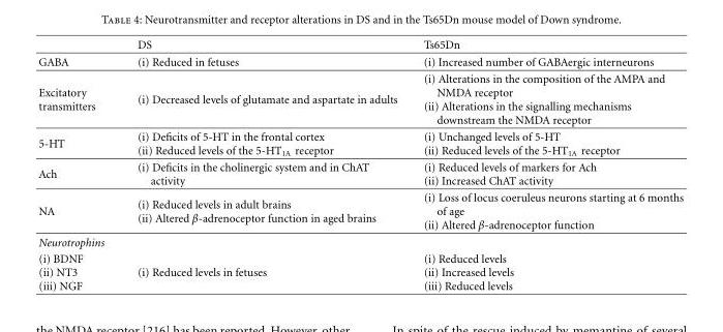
<table><thead><tr><td></td><td>DS</td><td>Ts65Dn</td></tr></thead><tbody><tr><td>GABA</td><td>(i) Reduced in fetuses</td><td>(i) Increased number of GABAergic interneurons</td></tr><tr><td>Excitatory transmitters</td><td>(i) Decreased levels of glutamate and aspartate in adults</td><td>(i) Alterations in the composition of the AMPA and NMDA receptor (ii) Alterations in the signalling mechanisms downstream the NMDA receptor</td></tr><tr><td>5-HT</td><td>(i) Deficits of 5-HT in the frontal cortex (ii) Reduced levels of the 5-HT<sub>1A</sub> receptor</td><td>(i) Unchanged levels of 5-HT (ii) Reduced levels of the 5-HT<sub>1A</sub> receptor</td></tr><tr><td>Ach</td><td>(i) Deficits in the cholinergic system and in ChAT activity</td><td>(i) Reduced levels of markers for Ach (ii) Increased ChAT activity</td></tr><tr><td>NA</td><td>(i) Reduced levels in adult brains (ii) Altered β-adrenoceptor function in aged brains</td><td>(i) Loss of locus coeruleus neurons starting at 6 months of age (ii) Altered β-adrenoceptor function</td></tr><tr><td colspan="3">Neurotrophins</td></tr><tr><td>(i) BDNF (ii) NT3 (iii) NGF</td><td>(i) Reduced levels in fetuses</td><td>(i) Reduced levels (ii) Increased levels (iii) Reduced levels</td></tr></tbody></table>